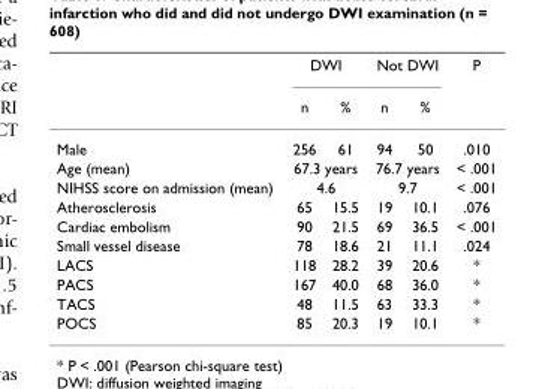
<table><thead><tr><td rowspan="2"></td><td colspan="2">DWI</td><td colspan="2">Not DWI</td><td rowspan="2">P</td></tr><tr><td>n</td><td>%</td><td>n</td><td>%</td></tr></thead><tbody><tr><td>Male</td><td>256</td><td>61</td><td>94</td><td>50</td><td>.010</td></tr><tr><td>Age (mean)</td><td colspan="2">67.3 years</td><td colspan="2">76.7 years</td><td>&lt; .001</td></tr><tr><td>NIHSS score on admission (mean)</td><td colspan="2">4.6</td><td colspan="2">9.7</td><td>&lt; .001</td></tr><tr><td>Atherosclerosis</td><td>65</td><td>15.5</td><td>19</td><td>10.1</td><td>.076</td></tr><tr><td>Cardiac embolism</td><td>90</td><td>21.5</td><td>69</td><td>36.5</td><td>&lt; .001</td></tr><tr><td>Small vessel disease</td><td>78</td><td>18.6</td><td>21</td><td>11.1</td><td>.024</td></tr><tr><td>LACS</td><td>118</td><td>28.2</td><td>39</td><td>20.6</td><td>*</td></tr><tr><td>PACS</td><td>167</td><td>40.0</td><td>68</td><td>36.0</td><td>*</td></tr><tr><td>TACS</td><td>48</td><td>11.5</td><td>63</td><td>33.3</td><td>*</td></tr><tr><td>POCS</td><td>85</td><td>20.3</td><td>19</td><td>10.1</td><td>*</td></tr></tbody></table>